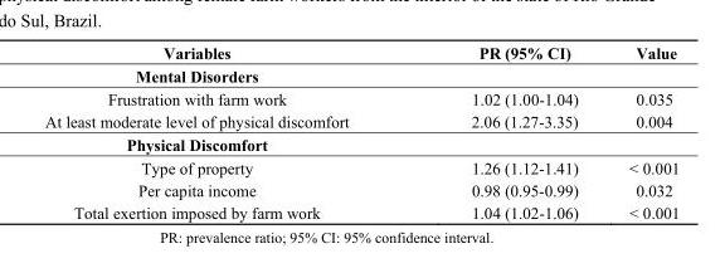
<table><thead><tr><td>Variables</td><td>PR (95% CI)</td><td>Value</td></tr></thead><tbody><tr><td colspan="3">Mental Disorders</td></tr><tr><td>Frustration with farm work</td><td>1.02 (1.00-1.04)</td><td>0.035</td></tr><tr><td>At least moderate level of physical discomfort</td><td>2.06 (1.27-3.35)</td><td>0.004</td></tr><tr><td colspan="3">Physical Discomfort</td></tr><tr><td>Type of property</td><td>1.26 (1.12-1.41)</td><td>&lt; 0.001</td></tr><tr><td>Per capita income</td><td>0.98 (0.95-0.99)</td><td>0.032</td></tr><tr><td>Total exertion imposed by farm work</td><td>1.04 (1.02-1.06)</td><td>&lt; 0.001</td></tr></tbody></table>